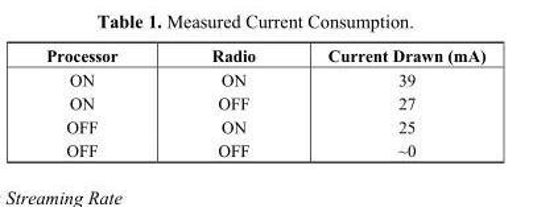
<table><thead><tr><td>Processor</td><td>Radio</td><td>Current Drawn (mA)</td></tr></thead><tbody><tr><td>ON</td><td>ON</td><td>39</td></tr><tr><td>ON</td><td>OFF</td><td>27</td></tr><tr><td>OFF</td><td>ON</td><td>25</td></tr><tr><td>OFF</td><td>OFF</td><td>~0</td></tr></tbody></table>